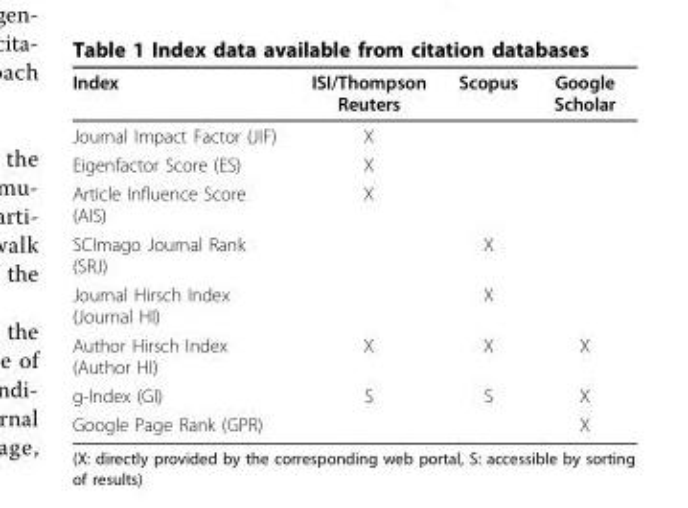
<table><thead><tr><td>Index</td><td>ISI/Thompson Reuters</td><td>Scopus</td><td>Google Scholar</td></tr></thead><tbody><tr><td>Journal Impact Factor (JIF)</td><td>X</td><td></td><td></td></tr><tr><td>Eigenfactor Score (ES)</td><td>X</td><td></td><td></td></tr><tr><td>Article Influence Score (AIS)</td><td>X</td><td></td><td></td></tr><tr><td>SCImago Journal Rank (SRJ)</td><td></td><td>X</td><td></td></tr><tr><td>Journal Hirsch Index (Journal HI)</td><td></td><td>X</td><td></td></tr><tr><td>Author Hirsch Index (Author HI)</td><td>X</td><td>X</td><td>X</td></tr><tr><td>g-Index (GI)</td><td>S</td><td>S</td><td>X</td></tr><tr><td>Google Page Rank (GPR)</td><td></td><td></td><td>X</td></tr></tbody></table>